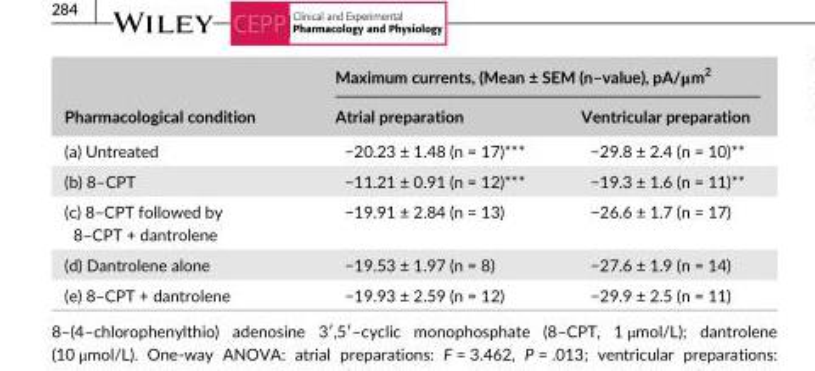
<table><thead><tr><td rowspan="2">Pharmacological condition</td><td colspan="2">Maximum currents, (Mean ± SEM (n–value), pA/μm<sup>2</sup></td></tr><tr><td>Atrial preparation</td><td>Ventricular preparation</td></tr></thead><tbody><tr><td>(a) Untreated</td><td>−20.23 ± 1.48 (n = 17)***</td><td>−29.8 ± 2.4 (n = 10)**</td></tr><tr><td>(b) 8–CPT</td><td>−11.21 ± 0.91 (n = 12)***</td><td>−19.3 ± 1.6 (n = 11)**</td></tr><tr><td>(c) 8–CPT followed by 8–CPT + dantrolene</td><td>−19.91 ± 2.84 (n = 13)</td><td>−26.6 ± 1.7 (n = 17)</td></tr><tr><td>(d) Dantrolene alone</td><td>−19.53 ± 1.97 (n = 8)</td><td>−27.6 ± 1.9 (n = 14)</td></tr><tr><td>(e) 8–CPT + dantrolene</td><td>−19.93 ± 2.59 (n = 12)</td><td>−29.9 ± 2.5 (n = 11)</td></tr></tbody></table>